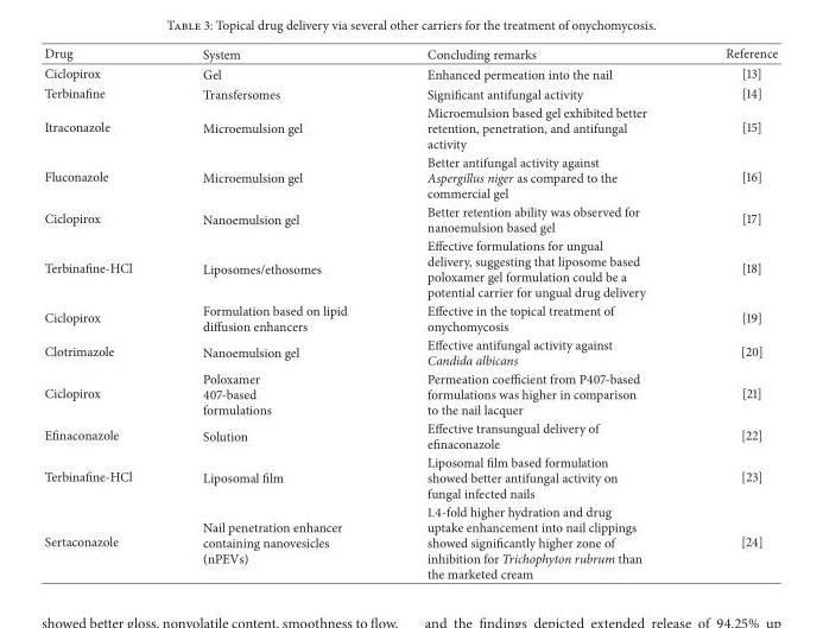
<table><thead><tr><td>Drug</td><td>System</td><td>Concluding remarks</td><td>Reference</td></tr></thead><tbody><tr><td>Ciclopirox</td><td>Gel</td><td>Enhanced permeation into the nail</td><td>[13]</td></tr><tr><td>Terbinafine</td><td>Transfersomes</td><td>Significant antifungal activity</td><td>[14]</td></tr><tr><td>Itraconazole</td><td>Microemulsion gel</td><td>Microemulsion based gel exhibited better retention, penetration, and antifungal activity</td><td>[15]</td></tr><tr><td>Fluconazole</td><td>Microemulsion gel</td><td>Better antifungal activity against Aspergillus niger as compared to the commercial gel</td><td>[16]</td></tr><tr><td>Ciclopirox</td><td>Nanoemulsion gel</td><td>Better retention ability was observed for nanoemulsion based gel</td><td>[17]</td></tr><tr><td>Terbinafine-HCl</td><td>Liposomes/ethosomes</td><td>Effective formulations for ungual delivery, suggesting that liposome based poloxamer gel formulation could be a potential carrier for ungual drug delivery</td><td>[18]</td></tr><tr><td>Ciclopirox</td><td>Formulation based on lipid diffusion enhancers</td><td>Effective in the topical treatment of onychomycosis</td><td>[19]</td></tr><tr><td>Clotrimazole</td><td>Nanoemulsion gel</td><td>Effective antifungal activity against Candida albicans</td><td>[20]</td></tr><tr><td>Ciclopirox</td><td>Poloxamer 407-based formulations</td><td>Permeation coefficient from P407-based formulations was higher in comparison to the nail lacquer</td><td>[21]</td></tr><tr><td>Efinaconazole</td><td>Solution</td><td>Effective transungual delivery of efinaconazole</td><td>[22]</td></tr><tr><td>Terbinafine-HCl</td><td>Liposomal film</td><td>Liposomal film based formulation showed better antifungal activity on fungal infected nails</td><td>[23]</td></tr><tr><td>Sertaconazole</td><td>Nail penetration enhancer containing nanovesicles (nPEVs)</td><td>1.4-fold higher hydration and drug uptake enhancement into nail clippings showed significantly higher zone of inhibition for Trichophyton rubrum than the marketed cream</td><td>[24]</td></tr></tbody></table>